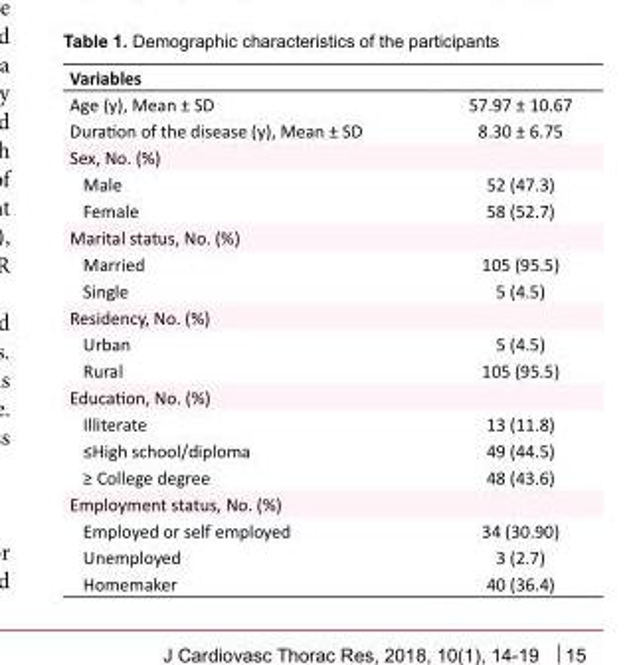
<table><tbody><tr><td colspan="2">Variables</td></tr><tr><td>Age (y), Mean ± SD</td><td>57.97 ± 10.67</td></tr><tr><td>Duration of the disease (y), Mean ± SD</td><td>8.30 ± 6.75</td></tr><tr><td colspan="2">Sex, No. (%)</td></tr><tr><td>Male</td><td>52 (47.3)</td></tr><tr><td>Female</td><td>58 (52.7)</td></tr><tr><td colspan="2">Marital status, No. (%)</td></tr><tr><td>Married</td><td>105 (95.5)</td></tr><tr><td>Single</td><td>5 (4.5)</td></tr><tr><td colspan="2">Residency, No. (%)</td></tr><tr><td>Urban</td><td>5 (4.5)</td></tr><tr><td>Rural</td><td>105 (95.5)</td></tr><tr><td colspan="2">Education, No. (%)</td></tr><tr><td>Illiterate</td><td>13 (11.8)</td></tr><tr><td>≤High school/diploma</td><td>49 (44.5)</td></tr><tr><td>≥ College degree</td><td>48 (43.6)</td></tr><tr><td colspan="2">Employment status, No. (%)</td></tr><tr><td>Employed or self employed</td><td>34 (30.90)</td></tr><tr><td>Unemployed</td><td>3 (2.7)</td></tr><tr><td>Homemaker</td><td>40 (36.4)</td></tr></tbody></table>